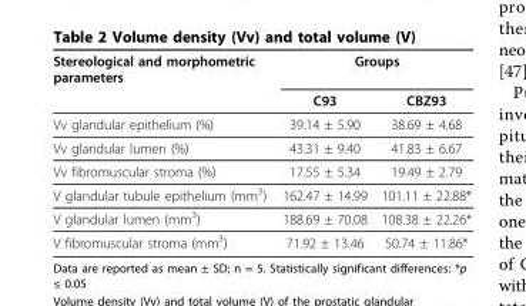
<table><thead><tr><td rowspan="2">Stereological and morphometric parameters</td><td colspan="2">Groups</td></tr><tr><td>C93</td><td>CBZ93</td></tr></thead><tbody><tr><td>Vv glandular epithelium (%)</td><td>39.14 ± 5.90</td><td>38.69 ± 4.68</td></tr><tr><td>Vv glandular lumen (%)</td><td>43.31 ± 9.40</td><td>41.83 ± 6.67</td></tr><tr><td>Vv fibromuscular stroma (%)</td><td>17.55 ± 5.34</td><td>19.49 ± 2.79</td></tr><tr><td>V glandular tubule epithelium (mm<sup>3</sup>)</td><td>162.47 ± 14.99</td><td>101.11 ± 22.88*</td></tr><tr><td>V glandular lumen (mm<sup>3</sup>)</td><td>188.69 ± 70.08</td><td>108.38 ± 22.26*</td></tr><tr><td>V fibromuscular stroma (mm<sup>3</sup>)</td><td>71.92 ± 13.46</td><td>50.74 ± 11.86*</td></tr></tbody></table>